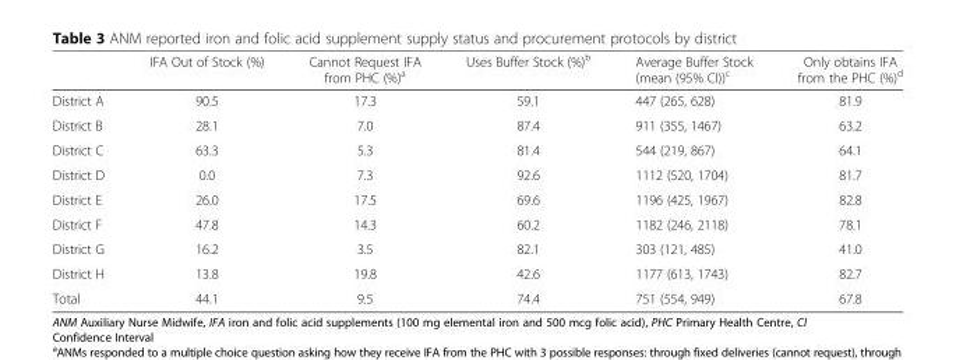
<table><thead><tr><td></td><td>IFA Out of Stock (%)</td><td>Cannot Request IFA from PHC (%)<sup>a</sup></td><td>Uses Buffer Stock (%)<sup>b</sup></td><td>Average Buffer Stock (mean (95% CI))<sup>c</sup></td><td>Only obtains IFA from the PHC (%)<sup>d</sup></td></tr></thead><tbody><tr><td>District A</td><td>90.5</td><td>17.3</td><td>59.1</td><td>447 (265, 628)</td><td>81.9</td></tr><tr><td>District B</td><td>28.1</td><td>7.0</td><td>87.4</td><td>911 (355, 1467)</td><td>63.2</td></tr><tr><td>District C</td><td>63.3</td><td>5.3</td><td>81.4</td><td>544 (219, 867)</td><td>64.1</td></tr><tr><td>District D</td><td>0.0</td><td>7.3</td><td>92.6</td><td>1112 (520, 1704)</td><td>81.7</td></tr><tr><td>District E</td><td>26.0</td><td>17.5</td><td>69.6</td><td>1196 (425, 1967)</td><td>82.8</td></tr><tr><td>District F</td><td>47.8</td><td>14.3</td><td>60.2</td><td>1182 (246, 2118)</td><td>78.1</td></tr><tr><td>District G</td><td>16.2</td><td>3.5</td><td>82.1</td><td>303 (121, 485)</td><td>41.0</td></tr><tr><td>District H</td><td>13.8</td><td>19.8</td><td>42.6</td><td>1177 (613, 1743)</td><td>82.7</td></tr><tr><td>Total</td><td>44.1</td><td>9.5</td><td>74.4</td><td>751 (554, 949)</td><td>67.8</td></tr></tbody></table>